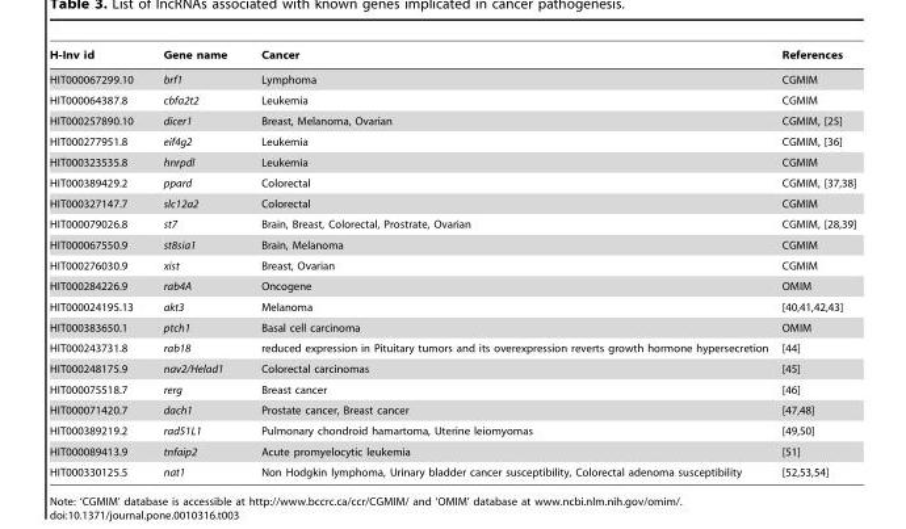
<table><thead><tr><td>H-Inv id</td><td>Gene name</td><td>Cancer</td><td>References</td></tr></thead><tbody><tr><td>HIT000067299.10</td><td>brf1</td><td>Lymphoma</td><td>CGMIM</td></tr><tr><td>HIT000064387.8</td><td>cbfa2t2</td><td>Leukemia</td><td>CGMIM</td></tr><tr><td>HIT000257890.10</td><td>dicer1</td><td>Breast, Melanoma, Ovarian</td><td>CGMIM, [25]</td></tr><tr><td>HIT000277951.8</td><td>eif4g2</td><td>Leukemia</td><td>CGMIM, [36]</td></tr><tr><td>HIT000323535.8</td><td>hnrpdl</td><td>Leukemia</td><td>CGMIM</td></tr><tr><td>HIT000389429.2</td><td>ppard</td><td>Colorectal</td><td>CGMIM, [37,38]</td></tr><tr><td>HIT000327147.7</td><td>slc12a2</td><td>Colorectal</td><td>CGMIM</td></tr><tr><td>HIT000079026.8</td><td>st7</td><td>Brain, Breast, Colorectal, Prostrate, Ovarian</td><td>CGMIM, [28,39]</td></tr><tr><td>HIT000067550.9</td><td>st8sia1</td><td>Brain, Melanoma</td><td>CGMIM</td></tr><tr><td>HIT000276030.9</td><td>xist</td><td>Breast, Ovarian</td><td>CGMIM</td></tr><tr><td>HIT000284226.9</td><td>rab4A</td><td>Oncogene</td><td>OMIM</td></tr><tr><td>HIT000024195.13</td><td>akt3</td><td>Melanoma</td><td>[40,41,42,43]</td></tr><tr><td>HIT000383650.1</td><td>ptch1</td><td>Basal cell carcinoma</td><td>OMIM</td></tr><tr><td>HIT000243731.8</td><td>rab18</td><td>reduced expression in Pituitary tumors and its overexpression reverts growth hormone hypersecretion</td><td>[44]</td></tr><tr><td>HIT000248175.9</td><td>nav2/Helad1</td><td>Colorectal carcinomas</td><td>[45]</td></tr><tr><td>HIT000075518.7</td><td>rerg</td><td>Breast cancer</td><td>[46]</td></tr><tr><td>HIT000071420.7</td><td>dach1</td><td>Prostate cancer, Breast cancer</td><td>[47,48]</td></tr><tr><td>HIT000389219.2</td><td>rad51L1</td><td>Pulmonary chondroid hamartoma, Uterine leiomyomas</td><td>[49,50]</td></tr><tr><td>HIT000089413.9</td><td>tnfaip2</td><td>Acute promyelocytic leukemia</td><td>[51]</td></tr><tr><td>HIT000330125.5</td><td>nat1</td><td>Non Hodgkin lymphoma, Urinary bladder cancer susceptibility, Colorectal adenoma susceptibility</td><td>[52,53,54]</td></tr></tbody></table>